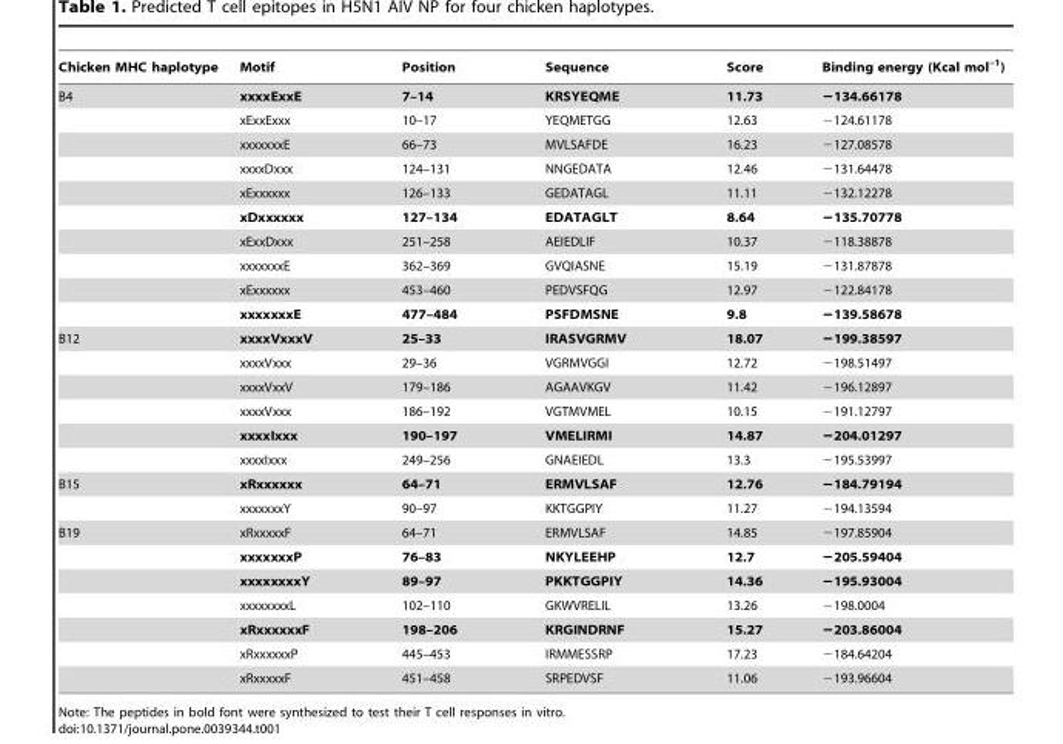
<table><thead><tr><td>Chicken MHC haplotype</td><td>Motif</td><td>Position</td><td>Sequence</td><td>Score</td><td>Binding energy (Kcal mol<sup>–1</sup>)</td></tr></thead><tbody><tr><td rowspan="10">B4</td><td>xxxxExxE</td><td>7–14</td><td>KRSYEQME</td><td>11.73</td><td>−134.66178</td></tr><tr><td>xExxExxx</td><td>10–17</td><td>YEQMETGG</td><td>12.63</td><td>−124.61178</td></tr><tr><td>xxxxxxxE</td><td>66–73</td><td>MVLSAFDE</td><td>16.23</td><td>−127.08578</td></tr><tr><td>xxxxDxxx</td><td>124–131</td><td>NNGEDATA</td><td>12.46</td><td>−131.64478</td></tr><tr><td>xExxxxxx</td><td>126–133</td><td>GEDATAGL</td><td>11.11</td><td>−132.12278</td></tr><tr><td>xDxxxxxx</td><td>127–134</td><td>EDATAGLT</td><td>8.64</td><td>−135.70778</td></tr><tr><td>xExxDxxx</td><td>251–258</td><td>AEIEDLIF</td><td>10.37</td><td>−118.38878</td></tr><tr><td>xxxxxxxE</td><td>362–369</td><td>GVQIASNE</td><td>15.19</td><td>−131.87878</td></tr><tr><td>xExxxxxx</td><td>453–460</td><td>PEDVSFQG</td><td>12.97</td><td>−122.84178</td></tr><tr><td>xxxxxxxE</td><td>477–484</td><td>PSFDMSNE</td><td>9.8</td><td>−139.58678</td></tr><tr><td rowspan="6">B12</td><td>xxxxVxxxV</td><td>25–33</td><td>IRASVGRMV</td><td>18.07</td><td>−199.38597</td></tr><tr><td>xxxxVxxx</td><td>29–36</td><td>VGRMVGGI</td><td>12.72</td><td>−198.51497</td></tr><tr><td>xxxxVxxV</td><td>179–186</td><td>AGAAVKGV</td><td>11.42</td><td>−196.12897</td></tr><tr><td>xxxxVxxx</td><td>186–192</td><td>VGTMVMEL</td><td>10.15</td><td>−191.12797</td></tr><tr><td>xxxxIxxx</td><td>190–197</td><td>VMELIRMI</td><td>14.87</td><td>−204.01297</td></tr><tr><td>xxxxIxxx</td><td>249–256</td><td>GNAEIEDL</td><td>13.3</td><td>−195.53997</td></tr><tr><td rowspan="2">B15</td><td>xRxxxxxx</td><td>64–71</td><td>ERMVLSAF</td><td>12.76</td><td>−184.79194</td></tr><tr><td>xxxxxxxY</td><td>90–97</td><td>KKTGGPIY</td><td>11.27</td><td>−194.13594</td></tr><tr><td rowspan="7">B19</td><td>xRxxxxxF</td><td>64–71</td><td>ERMVLSAF</td><td>14.85</td><td>−197.85904</td></tr><tr><td>xxxxxxxP</td><td>76–83</td><td>NKYLEEHP</td><td>12.7</td><td>−205.59404</td></tr><tr><td>xxxxxxxxY</td><td>89–97</td><td>PKKTGGPIY</td><td>14.36</td><td>−195.93004</td></tr><tr><td>xxxxxxxxL</td><td>102–110</td><td>GKWVRELIL</td><td>13.26</td><td>−198.0004</td></tr><tr><td>xRxxxxxxF</td><td>198–206</td><td>KRGINDRNF</td><td>15.27</td><td>−203.86004</td></tr><tr><td>xRxxxxxxP</td><td>445–453</td><td>IRMMESSRP</td><td>17.23</td><td>−184.64204</td></tr><tr><td>xRxxxxxF</td><td>451–458</td><td>SRPEDVSF</td><td>11.06</td><td>−193.96604</td></tr></tbody></table>